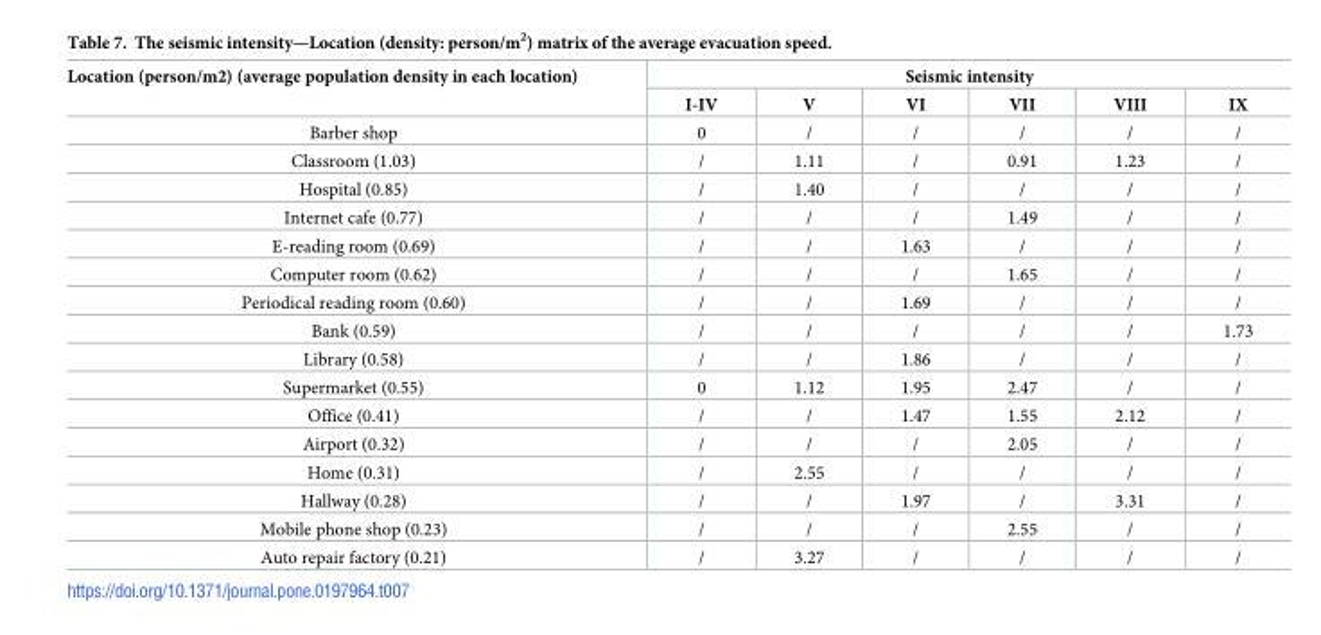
<table><thead><tr><td rowspan="2">Location (person/m2) (average population density in each location)</td><td colspan="6">Seismic intensity</td></tr><tr><td>I-IV</td><td>V</td><td>VI</td><td>VII</td><td>VIII</td><td>IX</td></tr></thead><tbody><tr><td>Barber shop</td><td>0</td><td>/</td><td>/</td><td>/</td><td>/</td><td>/</td></tr><tr><td>Classroom (1.03)</td><td>/</td><td>1.11</td><td>/</td><td>0.91</td><td>1.23</td><td>/</td></tr><tr><td>Hospital (0.85)</td><td>/</td><td>1.40</td><td>/</td><td>/</td><td>/</td><td>/</td></tr><tr><td>Internet cafe (0.77)</td><td>/</td><td>/</td><td>/</td><td>1.49</td><td>/</td><td>/</td></tr><tr><td>E-reading room (0.69)</td><td>/</td><td>/</td><td>1.63</td><td>/</td><td>/</td><td>/</td></tr><tr><td>Computer room (0.62)</td><td>/</td><td>/</td><td>/</td><td>1.65</td><td>/</td><td>/</td></tr><tr><td>Periodical reading room (0.60)</td><td>/</td><td>/</td><td>1.69</td><td>/</td><td>/</td><td>/</td></tr><tr><td>Bank (0.59)</td><td>/</td><td>/</td><td>/</td><td>/</td><td>/</td><td>1.73</td></tr><tr><td>Library (0.58)</td><td>/</td><td>/</td><td>1.86</td><td>/</td><td>/</td><td>/</td></tr><tr><td>Supermarket (0.55)</td><td>0</td><td>1.12</td><td>1.95</td><td>2.47</td><td>/</td><td>/</td></tr><tr><td>Office (0.41)</td><td>/</td><td>/</td><td>1.47</td><td>1.55</td><td>2.12</td><td>/</td></tr><tr><td>Airport (0.32)</td><td>/</td><td>/</td><td>/</td><td>2.05</td><td>/</td><td>/</td></tr><tr><td>Home (0.31)</td><td>/</td><td>2.55</td><td>/</td><td>/</td><td>/</td><td>/</td></tr><tr><td>Hallway (0.28)</td><td>/</td><td>/</td><td>1.97</td><td>/</td><td>3.31</td><td>/</td></tr><tr><td>Mobile phone shop (0.23)</td><td>/</td><td>/</td><td>/</td><td>2.55</td><td>/</td><td>/</td></tr><tr><td>Auto repair factory (0.21)</td><td>/</td><td>3.27</td><td>/</td><td>/</td><td>/</td><td>/</td></tr></tbody></table>